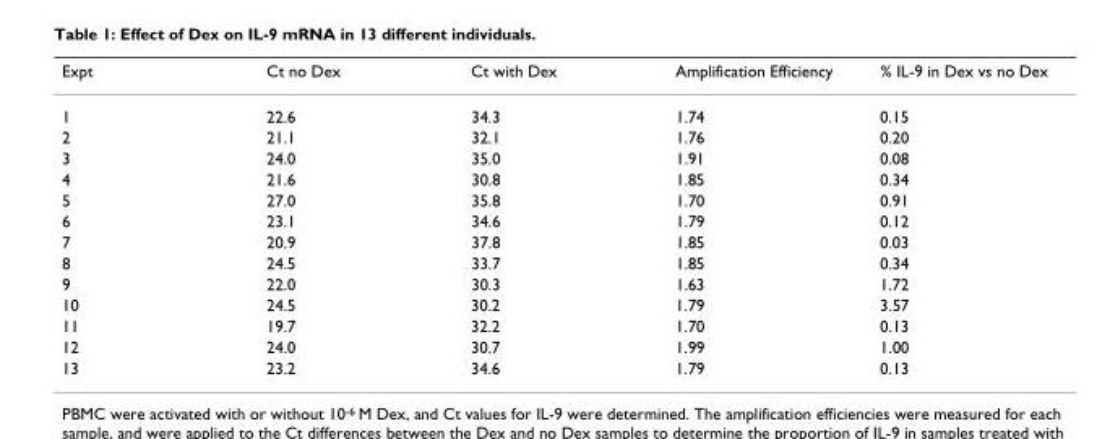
<table><thead><tr><td>Expt</td><td>Ct no Dex</td><td>Ct with Dex</td><td>Amplification Efficiency</td><td>% IL-9 in Dex vs no Dex</td></tr></thead><tbody><tr><td>1</td><td>22.6</td><td>34.3</td><td>1.74</td><td>0.15</td></tr><tr><td>2</td><td>21.1</td><td>32.1</td><td>1.76</td><td>0.20</td></tr><tr><td>3</td><td>24.0</td><td>35.0</td><td>1.91</td><td>0.08</td></tr><tr><td>4</td><td>21.6</td><td>30.8</td><td>1.85</td><td>0.34</td></tr><tr><td>5</td><td>27.0</td><td>35.8</td><td>1.70</td><td>0.91</td></tr><tr><td>6</td><td>23.1</td><td>34.6</td><td>1.79</td><td>0.12</td></tr><tr><td>7</td><td>20.9</td><td>37.8</td><td>1.85</td><td>0.03</td></tr><tr><td>8</td><td>24.5</td><td>33.7</td><td>1.85</td><td>0.34</td></tr><tr><td>9</td><td>22.0</td><td>30.3</td><td>1.63</td><td>1.72</td></tr><tr><td>10</td><td>24.5</td><td>30.2</td><td>1.79</td><td>3.57</td></tr><tr><td>11</td><td>19.7</td><td>32.2</td><td>1.70</td><td>0.13</td></tr><tr><td>12</td><td>24.0</td><td>30.7</td><td>1.99</td><td>1.00</td></tr><tr><td>13</td><td>23.2</td><td>34.6</td><td>1.79</td><td>0.13</td></tr></tbody></table>